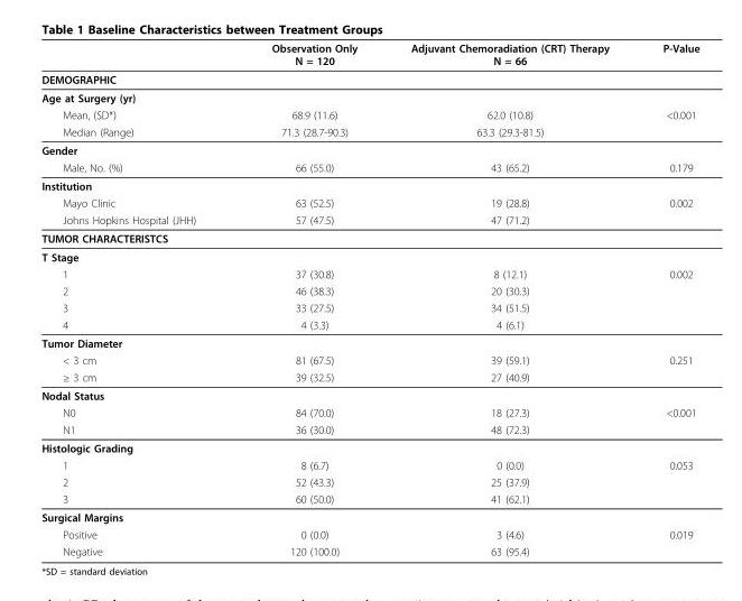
<table><thead><tr><td></td><td>Observation Only N = 120</td><td>Adjuvant Chemoradiation (CRT) Therapy N = 66</td><td>P-Value</td></tr></thead><tbody><tr><td colspan="4">DEMOGRAPHIC</td></tr><tr><td colspan="4">Age at Surgery (yr)</td></tr><tr><td>Mean, (SD*)</td><td>68.9 (11.6)</td><td>62.0 (10.8)</td><td>&lt;0.001</td></tr><tr><td>Median (Range)</td><td>71.3 (28.7-90.3)</td><td>63.3 (29.3-81.5)</td><td></td></tr><tr><td colspan="4">Gender</td></tr><tr><td>Male, No. (%)</td><td>66 (55.0)</td><td>43 (65.2)</td><td>0.179</td></tr><tr><td colspan="4">Institution</td></tr><tr><td>Mayo Clinic</td><td>63 (52.5)</td><td>19 (28.8)</td><td>0.002</td></tr><tr><td>Johns Hopkins Hospital (JHH)</td><td>57 (47.5)</td><td>47 (71.2)</td><td></td></tr><tr><td colspan="4">TUMOR CHARACTERISTCS</td></tr><tr><td colspan="4">T Stage</td></tr><tr><td>1</td><td>37 (30.8)</td><td>8 (12.1)</td><td>0.002</td></tr><tr><td>2</td><td>46 (38.3)</td><td>20 (30.3)</td><td></td></tr><tr><td>3</td><td>33 (27.5)</td><td>34 (51.5)</td><td></td></tr><tr><td>4</td><td>4 (3.3)</td><td>4 (6.1)</td><td></td></tr><tr><td colspan="4">Tumor Diameter</td></tr><tr><td>&lt; 3 cm</td><td>81 (67.5)</td><td>39 (59.1)</td><td>0.251</td></tr><tr><td>≥ 3 cm</td><td>39 (32.5)</td><td>27 (40.9)</td><td></td></tr><tr><td colspan="4">Nodal Status</td></tr><tr><td>N0</td><td>84 (70.0)</td><td>18 (27.3)</td><td>&lt;0.001</td></tr><tr><td>N1</td><td>36 (30.0)</td><td>48 (72.3)</td><td></td></tr><tr><td colspan="4">Histologic Grading</td></tr><tr><td>1</td><td>8 (6.7)</td><td>0 (0.0)</td><td>0.053</td></tr><tr><td>2</td><td>52 (43.3)</td><td>25 (37.9)</td><td></td></tr><tr><td>3</td><td>60 (50.0)</td><td>41 (62.1)</td><td></td></tr><tr><td colspan="4">Surgical Margins</td></tr><tr><td>Positive</td><td>0 (0.0)</td><td>3 (4.6)</td><td>0.019</td></tr><tr><td>Negative</td><td>120 (100.0)</td><td>63 (95.4)</td><td></td></tr></tbody></table>